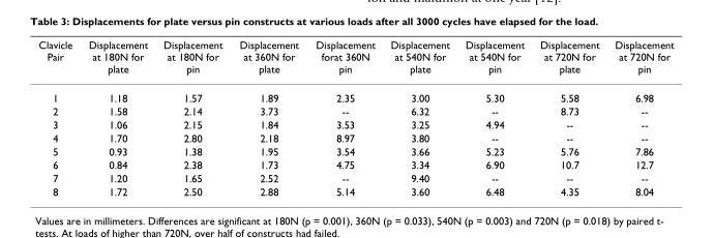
<table><thead><tr><td>Clavicle Pair</td><td>Displacement at 180N for plate</td><td>Displacement at 180N for pin</td><td>Displacement at 360N for plate</td><td>Displacement forat 360N pin</td><td>Displacement at 540N for plate</td><td>Displacement at 540N for pin</td><td>Displacement at 720N for plate</td><td>Displacement at 720N for pin</td></tr></thead><tbody><tr><td>1</td><td>1.18</td><td>1.57</td><td>1.89</td><td>2.35</td><td>3.00</td><td>5.30</td><td>5.58</td><td>6.98</td></tr><tr><td>2</td><td>1.58</td><td>2.14</td><td>3.73</td><td>--</td><td>6.32</td><td>--</td><td>8.73</td><td>--</td></tr><tr><td>3</td><td>1.06</td><td>2.15</td><td>1.84</td><td>3.53</td><td>3.25</td><td>4.94</td><td>--</td><td>--</td></tr><tr><td>4</td><td>1.70</td><td>2.80</td><td>2.18</td><td>8.97</td><td>3.80</td><td>--</td><td>--</td><td>--</td></tr><tr><td>5</td><td>0.93</td><td>1.38</td><td>1.95</td><td>3.54</td><td>3.66</td><td>5.23</td><td>5.76</td><td>7.86</td></tr><tr><td>6</td><td>0.84</td><td>2.38</td><td>1.73</td><td>4.75</td><td>3.34</td><td>6.90</td><td>10.7</td><td>12.7</td></tr><tr><td>7</td><td>1.20</td><td>1.65</td><td>2.52</td><td>--</td><td>9.40</td><td>--</td><td>--</td><td>--</td></tr><tr><td>8</td><td>1.72</td><td>2.50</td><td>2.88</td><td>5.14</td><td>3.60</td><td>6.48</td><td>4.35</td><td>8.04</td></tr></tbody></table>